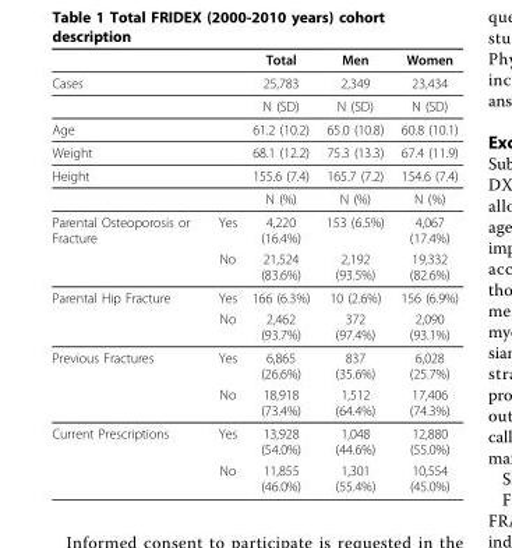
<table><thead><tr><td></td><td></td><td>Total</td><td>Men</td><td>Women</td></tr></thead><tbody><tr><td rowspan="2">Cases</td><td></td><td>25,783</td><td>2,349</td><td>23,434</td></tr><tr><td></td><td>N (SD)</td><td>N (SD)</td><td>N (SD)</td></tr><tr><td>Age</td><td></td><td>61.2 (10.2)</td><td>65.0 (10.8)</td><td>60.8 (10.1)</td></tr><tr><td>Weight</td><td></td><td>68.1 (12.2)</td><td>75.3 (13.3)</td><td>67.4 (11.9)</td></tr><tr><td rowspan="2">Height</td><td></td><td>155.6 (7.4)</td><td>165.7 (7.2)</td><td>154.6 (7.4)</td></tr><tr><td></td><td>N (%)</td><td>N (%)</td><td>N (%)</td></tr><tr><td rowspan="2">Parental Osteoporosis or Fracture</td><td>Yes</td><td>4,220 (16.4%)</td><td>153 (6.5%)</td><td>4,067 (17.4%)</td></tr><tr><td>No</td><td>21,524 (83.6%)</td><td>2,192 (93.5%)</td><td>19,332 (82.6%)</td></tr><tr><td rowspan="2">Parental Hip Fracture</td><td>Yes</td><td>166 (6.3%)</td><td>10 (2.6%)</td><td>156 (6.9%)</td></tr><tr><td>No</td><td>2,462 (93.7%)</td><td>372 (97.4%)</td><td>2,090 (93.1%)</td></tr><tr><td rowspan="2">Previous Fractures</td><td>Yes</td><td>6,865 (26.6%)</td><td>837 (35.6%)</td><td>6,028 (25.7%)</td></tr><tr><td>No</td><td>18,918 (73.4%)</td><td>1,512 (64.4%)</td><td>17,406 (74.3%)</td></tr><tr><td rowspan="2">Current Prescriptions</td><td>Yes</td><td>13,928 (54.0%)</td><td>1,048 (44.6%)</td><td>12,880 (55.0%)</td></tr><tr><td>No</td><td>11,855 (46.0%)</td><td>1,301 (55.4%)</td><td>10,554 (45.0%)</td></tr></tbody></table>